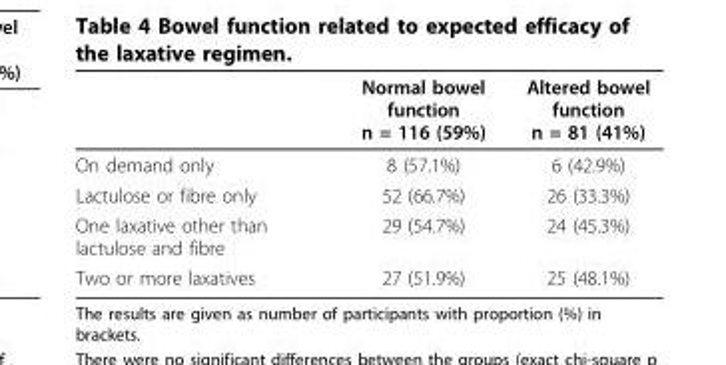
<table><thead><tr><td></td><td>Normal bowel function n = 116 (59%)</td><td>Altered bowel function n = 81 (41%)</td></tr></thead><tbody><tr><td>On demand only</td><td>8 (57.1%)</td><td>6 (42.9%)</td></tr><tr><td>Lactulose or fibre only</td><td>52 (66.7%)</td><td>26 (33.3%)</td></tr><tr><td>One laxative other than lactulose and fibre</td><td>29 (54.7%)</td><td>24 (45.3%)</td></tr><tr><td>Two or more laxatives</td><td>27 (51.9%)</td><td>25 (48.1%)</td></tr></tbody></table>